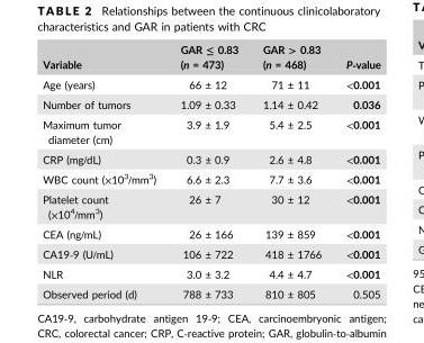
<table><thead><tr><td>Variable</td><td>GAR ≤ 0.83 (n = 473)</td><td>GAR &gt; 0.83 (n = 468)</td><td>P‐value</td></tr></thead><tbody><tr><td>Age (years)</td><td>66 ± 12</td><td>71 ± 11</td><td>&lt;0.001</td></tr><tr><td>Number of tumors</td><td>1.09 ± 0.33</td><td>1.14 ± 0.42</td><td>0.036</td></tr><tr><td>Maximum tumor diameter (cm)</td><td>3.9 ± 1.9</td><td>5.4 ± 2.5</td><td>&lt;0.001</td></tr><tr><td>CRP (mg/dL)</td><td>0.3 ± 0.9</td><td>2.6 ± 4.8</td><td>&lt;0.001</td></tr><tr><td>WBC count (×10<sup>3</sup>/mm<sup>3</sup>)</td><td>6.6 ± 2.3</td><td>7.7 ± 3.6</td><td>&lt;0.001</td></tr><tr><td>Platelet count (×10<sup>4</sup>/mm<sup>3</sup>)</td><td>26 ± 7</td><td>30 ± 12</td><td>&lt;0.001</td></tr><tr><td>CEA (ng/mL)</td><td>26 ± 166</td><td>139 ± 859</td><td>&lt;0.001</td></tr><tr><td>CA19‐9 (U/mL)</td><td>106 ± 722</td><td>418 ± 1766</td><td>&lt;0.001</td></tr><tr><td>NLR</td><td>3.0 ± 3.2</td><td>4.4 ± 4.7</td><td>&lt;0.001</td></tr><tr><td>Observed period (d)</td><td>788 ± 733</td><td>810 ± 805</td><td>0.505</td></tr></tbody></table>